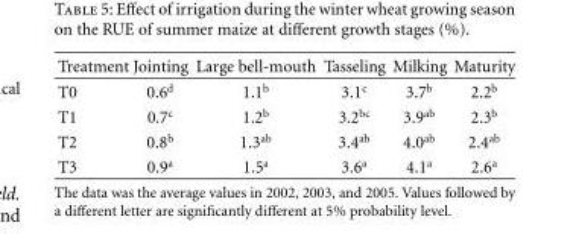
<table><thead><tr><td>Treatment</td><td>Jointing</td><td>Large bell-mouth</td><td>Tasseling</td><td>Milking</td><td>Maturity</td></tr></thead><tbody><tr><td>T0</td><td>0.6<sup>d</sup></td><td>1.1<sup>b</sup></td><td>3.1<sup>c</sup></td><td>3.7<sup>b</sup></td><td>2.2<sup>b</sup></td></tr><tr><td>T1</td><td>0.7<sup>c</sup></td><td>1.2<sup>b</sup></td><td>3.2<sup>bc</sup></td><td>3.9<sup>ab</sup></td><td>2.3<sup>b</sup></td></tr><tr><td>T2</td><td>0.8<sup>b</sup></td><td>1.3<sup>ab</sup></td><td>3.4<sup>ab</sup></td><td>4.0<sup>ab</sup></td><td>2.4<sup>ab</sup></td></tr><tr><td>T3</td><td>0.9<sup>a</sup></td><td>1.5<sup>a</sup></td><td>3.6<sup>a</sup></td><td>4.1<sup>a</sup></td><td>2.6<sup>a</sup></td></tr></tbody></table>